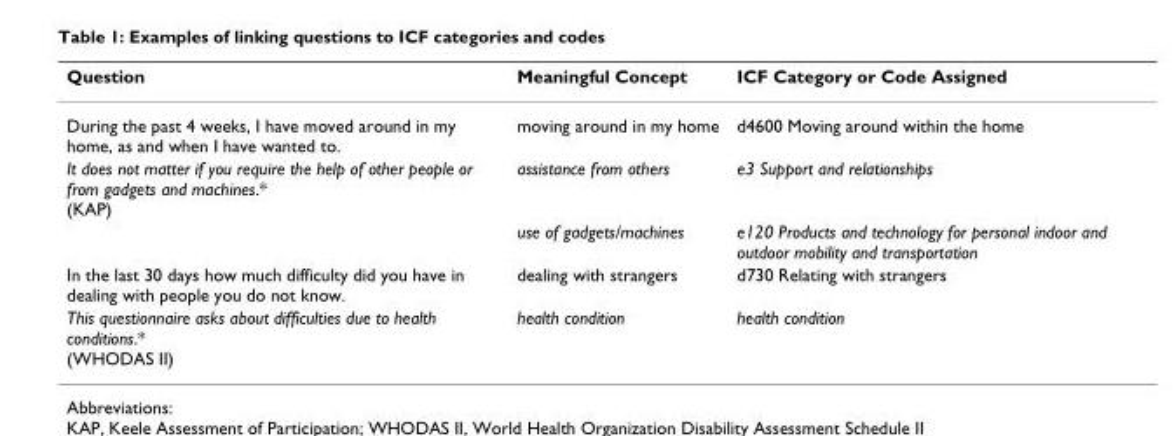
<table><thead><tr><td>Question</td><td>Meaningful Concept</td><td>ICF Category or Code Assigned</td></tr></thead><tbody><tr><td>During the past 4 weeks, I have moved around in my home, as and when I have wanted to.</td><td>moving around in my home</td><td>d4600 Moving around within the home</td></tr><tr><td rowspan="2">It does not matter if you require the help of other people or from gadgets and machines.* (KAP)</td><td>assistance from others</td><td>e3 Support and relationships</td></tr><tr><td>use of gadgets/machines</td><td>e120 Products and technology for personal indoor and outdoor mobility and transportation</td></tr><tr><td>In the last 30 days how much difficulty did you have in dealing with people you do not know.</td><td>dealing with strangers</td><td>d730 Relating with strangers</td></tr><tr><td>This questionnaire asks about difficulties due to health conditions.* (WHODAS II)</td><td>health condition</td><td>health condition</td></tr></tbody></table>